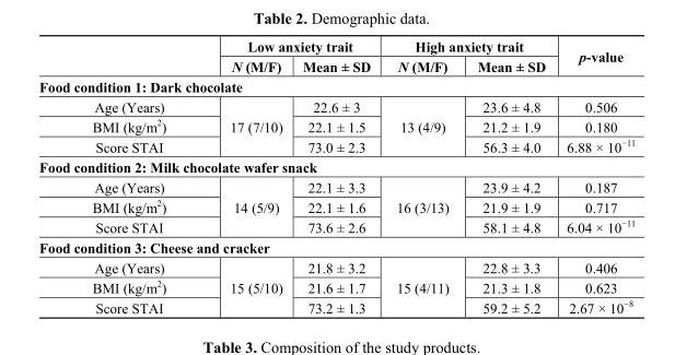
<table><thead><tr><td rowspan="2"></td><td colspan="2">Low anxiety trait</td><td colspan="2">High anxiety trait</td><td rowspan="2">p-value</td></tr><tr><td>N (M/F)</td><td>Mean ± SD</td><td>N (M/F)</td><td>Mean ± SD</td></tr></thead><tbody><tr><td colspan="6">Food condition 1: Dark chocolate</td></tr><tr><td>Age (Years)</td><td rowspan="3">17 (7/10)</td><td>22.6 ± 3</td><td rowspan="3">13 (4/9)</td><td>23.6 ± 4.8</td><td>0.506</td></tr><tr><td>BMI (kg/m<sup>2</sup>)</td><td>22.1 ± 1.5</td><td>21.2 ± 1.9</td><td>0.180</td></tr><tr><td>Score STAI</td><td>73.0 ± 2.3</td><td>56.3 ± 4.0</td><td>6.88 × 10<sup>−11</sup></td></tr><tr><td colspan="6">Food condition 2: Milk chocolate wafer snack</td></tr><tr><td>Age (Years)</td><td rowspan="3">14 (5/9)</td><td>22.1 ± 3.3</td><td rowspan="3">16 (3/13)</td><td>23.9 ± 4.2</td><td>0.187</td></tr><tr><td>BMI (kg/m<sup>2</sup>)</td><td>22.1 ± 1.6</td><td>21.9 ± 1.9</td><td>0.717</td></tr><tr><td>Score STAI</td><td>73.6 ± 2.6</td><td>58.1 ± 4.8</td><td>6.04 × 10<sup>−11</sup></td></tr><tr><td colspan="6">Food condition 3: Cheese and cracker</td></tr><tr><td>Age (Years)</td><td rowspan="3">15 (5/10)</td><td>21.8 ± 3.2</td><td rowspan="3">15 (4/11)</td><td>22.8 ± 3.3</td><td>0.406</td></tr><tr><td>BMI (kg/m<sup>2</sup>)</td><td>21.6 ± 1.7</td><td>21.3 ± 1.8</td><td>0.623</td></tr><tr><td>Score STAI</td><td>73.2 ± 1.3</td><td>59.2 ± 5.2</td><td>2.67 × 10<sup>−8</sup></td></tr></tbody></table>